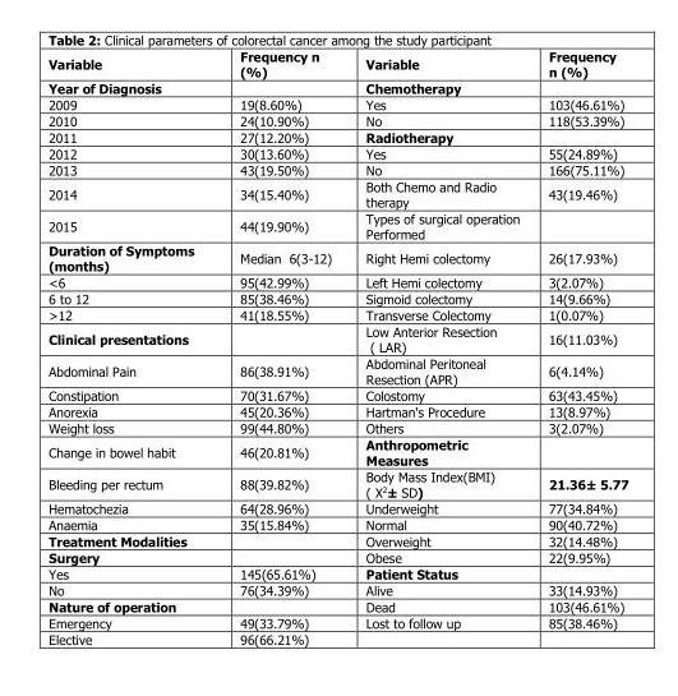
<table><thead><tr><td>Variable</td><td>Frequency n (%)</td><td>Variable</td><td>Frequency n (%)</td></tr></thead><tbody><tr><td>Year of Diagnosis</td><td></td><td>Chemotherapy</td><td></td></tr><tr><td>2009</td><td>19(8.60%)</td><td>Yes</td><td>103(46.61%)</td></tr><tr><td>2010</td><td>24(10.90%)</td><td>No</td><td>118(53.39%)</td></tr><tr><td>2011</td><td>27(12.20%)</td><td>Radiotherapy</td><td></td></tr><tr><td>2012</td><td>30(13.60%)</td><td>Yes</td><td>55(24.89%)</td></tr><tr><td>2013</td><td>43(19.50%)</td><td>No</td><td>166(75.11%)</td></tr><tr><td>2014</td><td>34(15.40%)</td><td>Both Chemo and Radio therapy</td><td>43(19.46%)</td></tr><tr><td>2015</td><td>44(19.90%)</td><td>Types of surgical operation Performed</td><td></td></tr><tr><td>Duration of Symptoms (months)</td><td>Median 6(3-12)</td><td>Right Hemi colectomy</td><td>26(17.93%)</td></tr><tr><td>&lt;6</td><td>95(42.99%)</td><td>Left Hemi colectomy</td><td>3(2.07%)</td></tr><tr><td>6 to 12</td><td>85(38.46%)</td><td>Sigmoid colectomy</td><td>14(9.66%)</td></tr><tr><td>&gt;12</td><td>41(18.55%)</td><td>Transverse Colectomy</td><td>1(0.07%)</td></tr><tr><td>Clinical presentations</td><td></td><td>Low Anterior Resection ( LAR)</td><td>16(11.03%)</td></tr><tr><td>Abdominal Pain</td><td>86(38.91%)</td><td>Abdominal Peritoneal Resection (APR)</td><td>6(4.14%)</td></tr><tr><td>Constipation</td><td>70(31.67%)</td><td>Colostomy</td><td>63(43.45%)</td></tr><tr><td>Anorexia</td><td>45(20.36%)</td><td>Hartman&#x27;s Procedure</td><td>13(8.97%)</td></tr><tr><td>Weight loss</td><td>99(44.80%)</td><td>Others</td><td>3(2.07%)</td></tr><tr><td>Change in bowel habit</td><td>46(20.81%)</td><td>Anthropometric Measures</td><td></td></tr><tr><td>Bleeding per rectum</td><td>88(39.82%)</td><td>Body Mass Index(BMI) ( X<sup>2</sup>± SD)</td><td>21.36± 5.77</td></tr><tr><td>Hematochezia</td><td>64(28.96%)</td><td>Underweight</td><td>77(34.84%)</td></tr><tr><td>Anaemia</td><td>35(15.84%)</td><td>Normal</td><td>90(40.72%)</td></tr><tr><td>Treatment Modalities</td><td></td><td>Overweight</td><td>32(14.48%)</td></tr><tr><td>Surgery</td><td></td><td>Obese</td><td>22(9.95%)</td></tr><tr><td>Yes</td><td>145(65.61%)</td><td>Patient Status</td><td></td></tr><tr><td>No</td><td>76(34.39%)</td><td>Alive</td><td>33(14.93%)</td></tr><tr><td>Nature of operation</td><td></td><td>Dead</td><td>103(46.61%)</td></tr><tr><td>Emergency</td><td>49(33.79%)</td><td>Lost to follow up</td><td>85(38.46%)</td></tr><tr><td>Elective</td><td>96(66.21%)</td><td></td><td></td></tr></tbody></table>